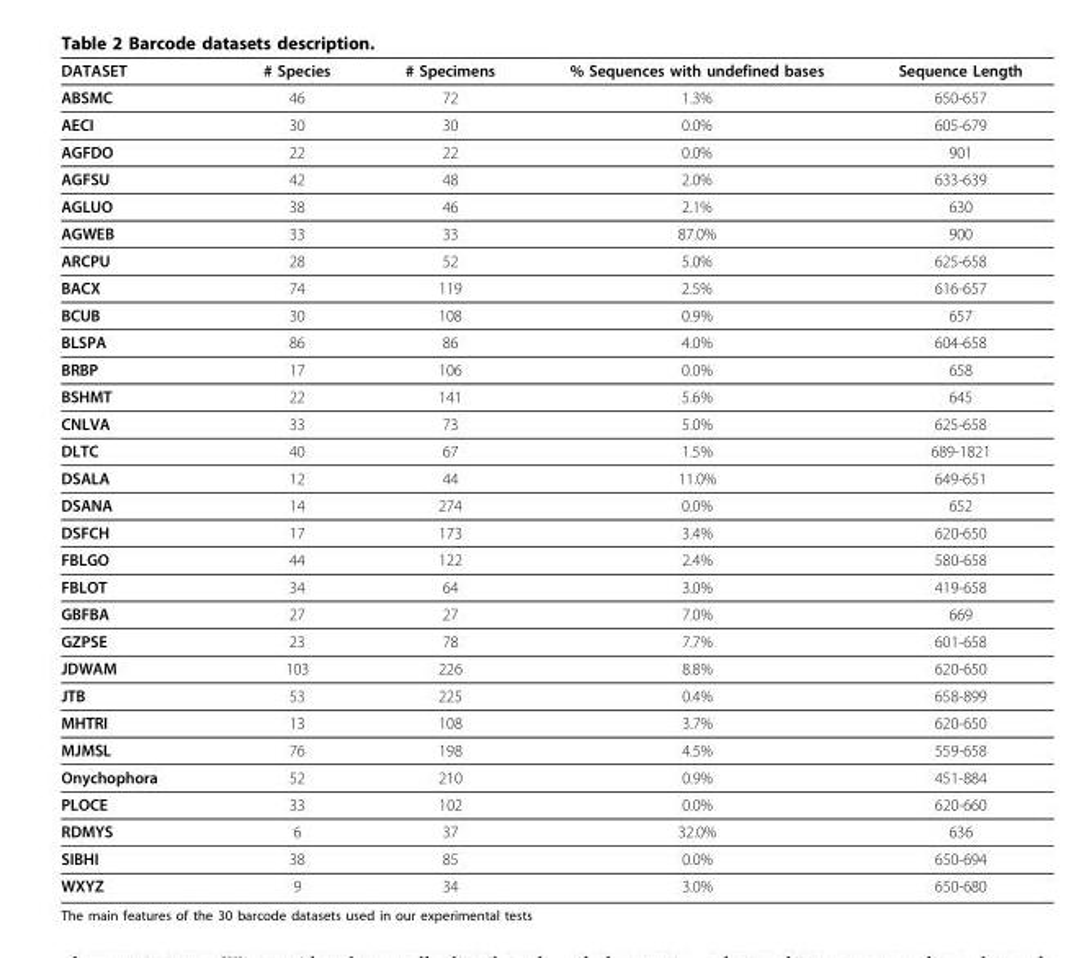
<table><thead><tr><td>DATASET</td><td># Species</td><td># Specimens</td><td>% Sequences with undefined bases</td><td>Sequence Length</td></tr></thead><tbody><tr><td>ABSMC</td><td>46</td><td>72</td><td>1.3%</td><td>650-657</td></tr><tr><td>AECI</td><td>30</td><td>30</td><td>0.0%</td><td>605-679</td></tr><tr><td>AGFDO</td><td>22</td><td>22</td><td>0.0%</td><td>901</td></tr><tr><td>AGFSU</td><td>42</td><td>48</td><td>2.0%</td><td>633-639</td></tr><tr><td>AGLUO</td><td>38</td><td>46</td><td>2.1%</td><td>630</td></tr><tr><td>AGWEB</td><td>33</td><td>33</td><td>87.0%</td><td>900</td></tr><tr><td>ARCPU</td><td>28</td><td>52</td><td>5.0%</td><td>625-658</td></tr><tr><td>BACX</td><td>74</td><td>119</td><td>2.5%</td><td>616-657</td></tr><tr><td>BCUB</td><td>30</td><td>108</td><td>0.9%</td><td>657</td></tr><tr><td>BLSPA</td><td>86</td><td>86</td><td>4.0%</td><td>604-658</td></tr><tr><td>BRBP</td><td>17</td><td>106</td><td>0.0%</td><td>658</td></tr><tr><td>BSHMT</td><td>22</td><td>141</td><td>5.6%</td><td>645</td></tr><tr><td>CNLVA</td><td>33</td><td>73</td><td>5.0%</td><td>625-658</td></tr><tr><td>DLTC</td><td>40</td><td>67</td><td>1.5%</td><td>689-1821</td></tr><tr><td>DSALA</td><td>12</td><td>44</td><td>11.0%</td><td>649-651</td></tr><tr><td>DSANA</td><td>14</td><td>274</td><td>0.0%</td><td>652</td></tr><tr><td>DSFCH</td><td>17</td><td>173</td><td>3.4%</td><td>620-650</td></tr><tr><td>FBLGO</td><td>44</td><td>122</td><td>2.4%</td><td>580-658</td></tr><tr><td>FBLOT</td><td>34</td><td>64</td><td>3.0%</td><td>419-658</td></tr><tr><td>GBFBA</td><td>27</td><td>27</td><td>7.0%</td><td>669</td></tr><tr><td>GZPSE</td><td>23</td><td>78</td><td>7.7%</td><td>601-658</td></tr><tr><td>JDWAM</td><td>103</td><td>226</td><td>8.8%</td><td>620-650</td></tr><tr><td>JTB</td><td>53</td><td>225</td><td>0.4%</td><td>658-899</td></tr><tr><td>MHTRI</td><td>13</td><td>108</td><td>3.7%</td><td>620-650</td></tr><tr><td>MJMSL</td><td>76</td><td>198</td><td>4.5%</td><td>559-658</td></tr><tr><td>Onychophora</td><td>52</td><td>210</td><td>0.9%</td><td>451-884</td></tr><tr><td>PLOCE</td><td>33</td><td>102</td><td>0.0%</td><td>620-660</td></tr><tr><td>RDMYS</td><td>6</td><td>37</td><td>32.0%</td><td>636</td></tr><tr><td>SIBHI</td><td>38</td><td>85</td><td>0.0%</td><td>650-694</td></tr><tr><td>WXYZ</td><td>9</td><td>34</td><td>3.0%</td><td>650-680</td></tr></tbody></table>